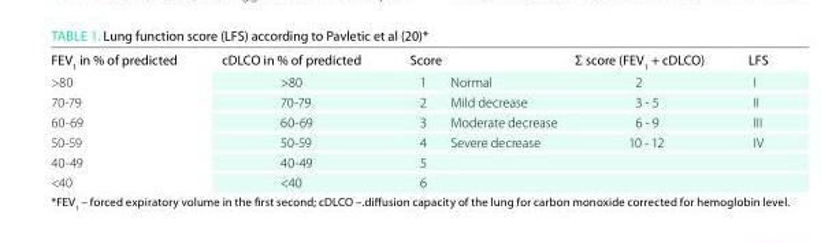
<table><thead><tr><td>FEV<sub>1</sub> in % of predicted</td><td>cDlCo in % of predicted</td><td>Score</td><td></td><td>Σ score (FEV<sub>1</sub> + cDlCo)</td><td>lFS</td></tr></thead><tbody><tr><td>&gt;80</td><td>&gt;80</td><td>1</td><td>Normal</td><td>2</td><td>I</td></tr><tr><td>70-79</td><td>70-79</td><td>2</td><td>Mild decrease</td><td>3 - 5</td><td>II</td></tr><tr><td>60-69</td><td>60-69</td><td>3</td><td>Moderate decrease</td><td>6 - 9</td><td>III</td></tr><tr><td>50-59</td><td>50-59</td><td>4</td><td>Severe decrease</td><td>10 - 12</td><td>IV</td></tr><tr><td>40-49</td><td>40-49</td><td>5</td><td></td><td></td><td></td></tr><tr><td>&lt;40</td><td>&lt;40</td><td>6</td><td></td><td></td><td></td></tr></tbody></table>